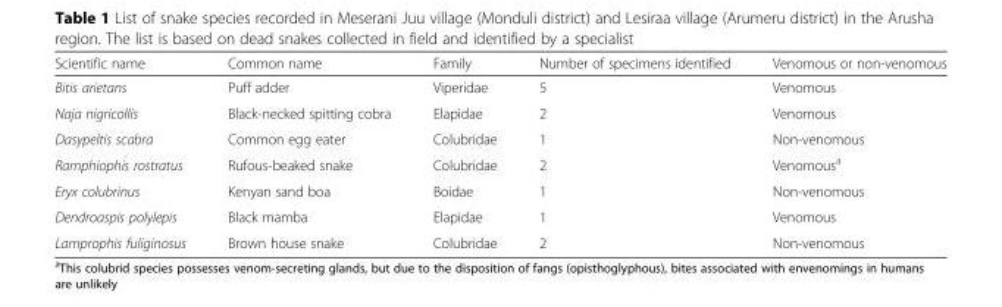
<table><thead><tr><td>Scientific name</td><td>Common name</td><td>Family</td><td>Number of specimens identified</td><td>Venomous or non-venomous</td></tr></thead><tbody><tr><td>Bitis arietans</td><td>Puff adder</td><td>Viperidae</td><td>5</td><td>Venomous</td></tr><tr><td>Naja nigricollis</td><td>Black-necked spitting cobra</td><td>Elapidae</td><td>2</td><td>Venomous</td></tr><tr><td>Dasypeltis scabra</td><td>Common egg eater</td><td>Colubridae</td><td>1</td><td>Non-venomous</td></tr><tr><td>Ramphiophis rostratus</td><td>Rufous-beaked snake</td><td>Colubridae</td><td>2</td><td>Venomous<sup>a</sup></td></tr><tr><td>Eryx colubrinus</td><td>Kenyan sand boa</td><td>Boidae</td><td>1</td><td>Non-venomous</td></tr><tr><td>Dendroaspis polylepis</td><td>Black mamba</td><td>Elapidae</td><td>1</td><td>Venomous</td></tr><tr><td>Lamprophis fuliginosus</td><td>Brown house snake</td><td>Colubridae</td><td>2</td><td>Non-venomous</td></tr></tbody></table>